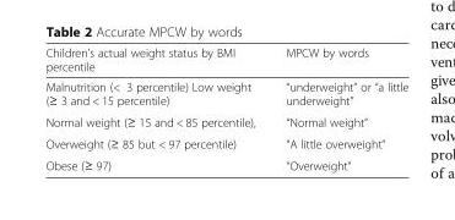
<table><thead><tr><td>Children’s actual weight status by BMI percentile</td><td>MPCW by words</td></tr></thead><tbody><tr><td>Malnutrition (&lt; 3 percentile) Low weight (≥ 3 and &lt; 15 percentile)</td><td>“underweight” or “a little underweight”</td></tr><tr><td>Normal weight (≥ 15 and &lt; 85 percentile),</td><td>“Normal weight”</td></tr><tr><td>Overweight (≥ 85 but &lt; 97 percentile)</td><td>“A little overweight”</td></tr><tr><td>Obese (≥ 97)</td><td>“Overweight”</td></tr></tbody></table>